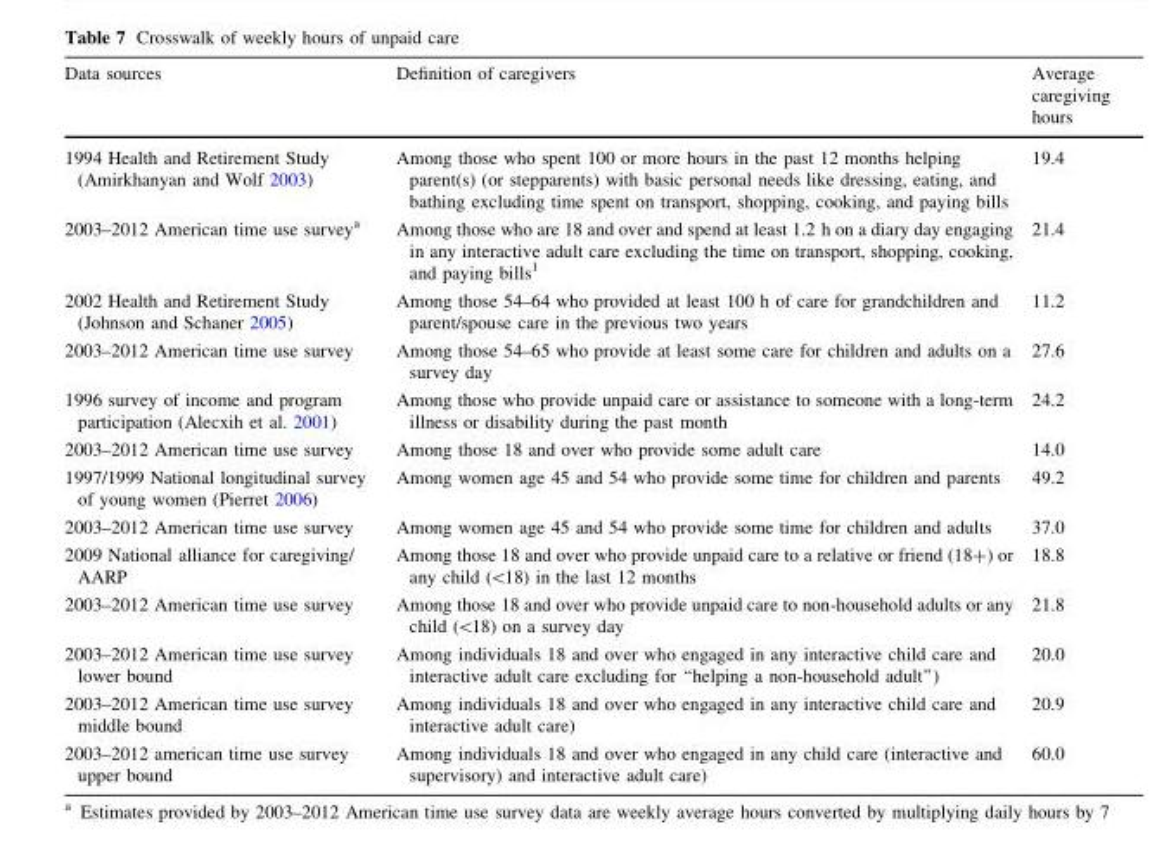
<table><thead><tr><td>Data sources</td><td>Definition of caregivers</td><td>Average caregiving hours</td></tr></thead><tbody><tr><td>1994 Health and Retirement Study (Amirkhanyan and Wolf 2003)</td><td>Among those who spent 100 or more hours in the past 12 months helping parent(s) (or stepparents) with basic personal needs like dressing, eating, and bathing excluding time spent on transport, shopping, cooking, and paying bills</td><td>19.4</td></tr><tr><td>2003–2012 American time use survey<sup>a</sup></td><td>Among those who are 18 and over and spend at least 1.2 h on a diary day engaging in any interactive adult care excluding the time on transport, shopping, cooking, and paying bills<sup>1</sup></td><td>21.4</td></tr><tr><td>2002 Health and Retirement Study (Johnson and Schaner 2005)</td><td>Among those 54–64 who provided at least 100 h of care for grandchildren and parent/spouse care in the previous two years</td><td>11.2</td></tr><tr><td>2003–2012 American time use survey</td><td>Among those 54–65 who provide at least some care for children and adults on a survey day</td><td>27.6</td></tr><tr><td>1996 survey of income and program participation (Alecxih et al. 2001)</td><td>Among those who provide unpaid care or assistance to someone with a long-term illness or disability during the past month</td><td>24.2</td></tr><tr><td>2003–2012 American time use survey</td><td>Among those 18 and over who provide some adult care</td><td>14.0</td></tr><tr><td>1997/1999 National longitudinal survey of young women (Pierret 2006)</td><td>Among women age 45 and 54 who provide some time for children and parents</td><td>49.2</td></tr><tr><td>2003–2012 American time use survey</td><td>Among women age 45 and 54 who provide some time for children and adults</td><td>37.0</td></tr><tr><td>2009 National alliance for caregiving/ AARP</td><td>Among those 18 and over who provide unpaid care to a relative or friend (18+) or any child (&lt;18) in the last 12 months</td><td>18.8</td></tr><tr><td>2003–2012 American time use survey</td><td>Among those 18 and over who provide unpaid care to non-household adults or any child (&lt;18) on a survey day</td><td>21.8</td></tr><tr><td>2003–2012 American time use survey lower bound</td><td>Among individuals 18 and over who engaged in any interactive child care and interactive adult care excluding for ‘‘helping a non-household adult’’)</td><td>20.0</td></tr><tr><td>2003–2012 American time use survey middle bound</td><td>Among individuals 18 and over who engaged in any interactive child care and interactive adult care)</td><td>20.9</td></tr><tr><td>2003–2012 american time use survey upper bound</td><td>Among individuals 18 and over who engaged in any child care (interactive and supervisory) and interactive adult care)</td><td>60.0</td></tr></tbody></table>